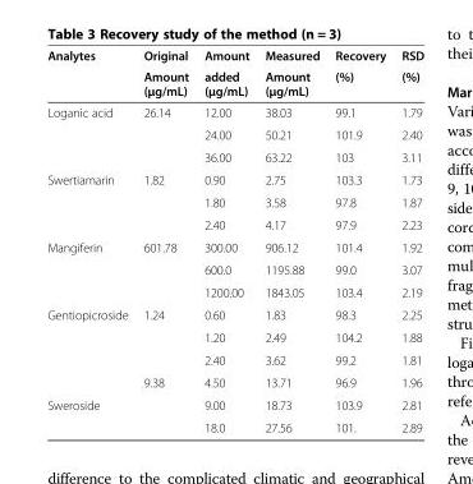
<table><thead><tr><td rowspan="2">Analytes</td><td rowspan="2">Original Amount (μg/mL)</td><td rowspan="2">Amount added (μg/mL)</td><td rowspan="2">Measured Amount (μg/mL)</td><td rowspan="2">Recovery (%)</td><td rowspan="2">RSD (%)</td></tr><tr></tr></thead><tbody><tr><td rowspan="3">Loganic acid</td><td rowspan="3">26.14</td><td>12.00</td><td>38.03</td><td>99.1</td><td>1.79</td></tr><tr><td>24.00</td><td>50.21</td><td>101.9</td><td>2.40</td></tr><tr><td>36.00</td><td>63.22</td><td>103</td><td>3.11</td></tr><tr><td rowspan="3">Swertiamarin</td><td rowspan="3">1.82</td><td>0.90</td><td>2.75</td><td>103.3</td><td>1.73</td></tr><tr><td>1.80</td><td>3.58</td><td>97.8</td><td>1.87</td></tr><tr><td>2.40</td><td>4.17</td><td>97.9</td><td>2.23</td></tr><tr><td rowspan="3">Mangiferin</td><td rowspan="3">601.78</td><td>300.00</td><td>906.12</td><td>101.4</td><td>1.92</td></tr><tr><td>600.0</td><td>1195.88</td><td>99.0</td><td>3.07</td></tr><tr><td>1200.00</td><td>1843.05</td><td>103.4</td><td>2.19</td></tr><tr><td rowspan="4">Gentiopicroside</td><td rowspan="3">1.24</td><td>0.60</td><td>1.83</td><td>98.3</td><td>2.25</td></tr><tr><td>1.20</td><td>2.49</td><td>104.2</td><td>1.88</td></tr><tr><td>2.40</td><td>3.62</td><td>99.2</td><td>1.81</td></tr><tr><td rowspan="3">9.38</td><td>4.50</td><td>13.71</td><td>96.9</td><td>1.96</td></tr><tr><td rowspan="2">Sweroside</td><td>9.00</td><td>18.73</td><td>103.9</td><td>2.81</td></tr><tr><td>18.0</td><td>27.56</td><td>101.</td><td>2.89</td></tr></tbody></table>